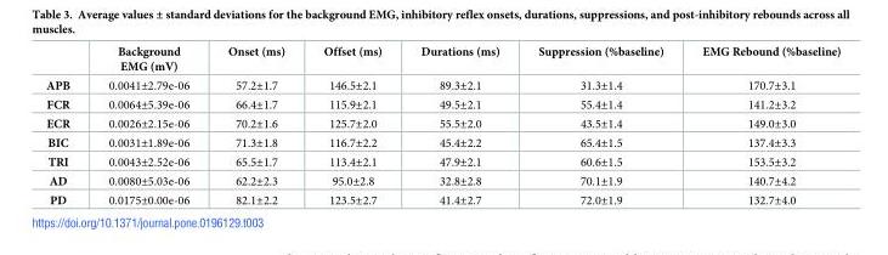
<table><thead><tr><td></td><td>Background EMG (mV)</td><td>Onset (ms)</td><td>Offset (ms)</td><td>Durations (ms)</td><td>Suppression (%baseline)</td><td>EMG Rebound (%baseline)</td></tr></thead><tbody><tr><td>APB</td><td>0.0041±2.79e-06</td><td>57.2±1.7</td><td>146.5±2.1</td><td>89.3±2.1</td><td>31.3±1.4</td><td>170.7±3.1</td></tr><tr><td>FCR</td><td>0.0064±5.39e-06</td><td>66.4±1.7</td><td>115.9±2.1</td><td>49.5±2.1</td><td>55.4±1.4</td><td>141.2±3.2</td></tr><tr><td>ECR</td><td>0.0026±2.15e-06</td><td>70.2±1.6</td><td>125.7±2.0</td><td>55.5±2.0</td><td>43.5±1.4</td><td>149.0±3.0</td></tr><tr><td>BIC</td><td>0.0031±1.89e-06</td><td>71.3±1.8</td><td>116.7±2.2</td><td>45.4±2.2</td><td>65.4±1.5</td><td>137.4±3.3</td></tr><tr><td>TRI</td><td>0.0043±2.52e-06</td><td>65.5±1.7</td><td>113.4±2.1</td><td>47.9±2.1</td><td>60.6±1.5</td><td>153.5±3.2</td></tr><tr><td>AD</td><td>0.0080±5.03e-06</td><td>62.2±2.3</td><td>95.0±2.8</td><td>32.8±2.8</td><td>70.1±1.9</td><td>140.7±4.2</td></tr><tr><td>PD</td><td>0.0175±0.00e-06</td><td>82.1±2.2</td><td>123.5±2.7</td><td>41.4±2.7</td><td>72.0±1.9</td><td>132.7±4.0</td></tr></tbody></table>